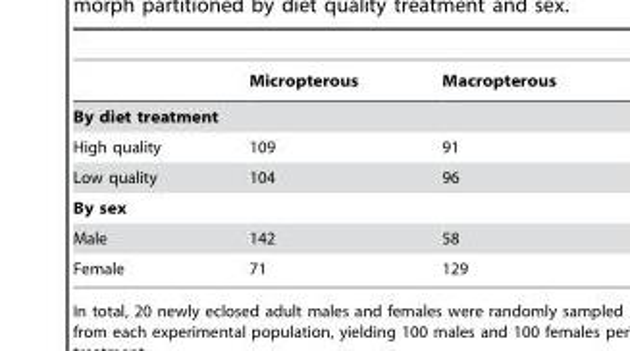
<table><thead><tr><td></td><td>Micropterous</td><td>Macropterous</td></tr></thead><tbody><tr><td colspan="3">By diet treatment</td></tr><tr><td>High quality</td><td>109</td><td>91</td></tr><tr><td>Low quality</td><td>104</td><td>96</td></tr><tr><td colspan="3">By sex</td></tr><tr><td>Male</td><td>142</td><td>58</td></tr><tr><td>Female</td><td>71</td><td>129</td></tr></tbody></table>